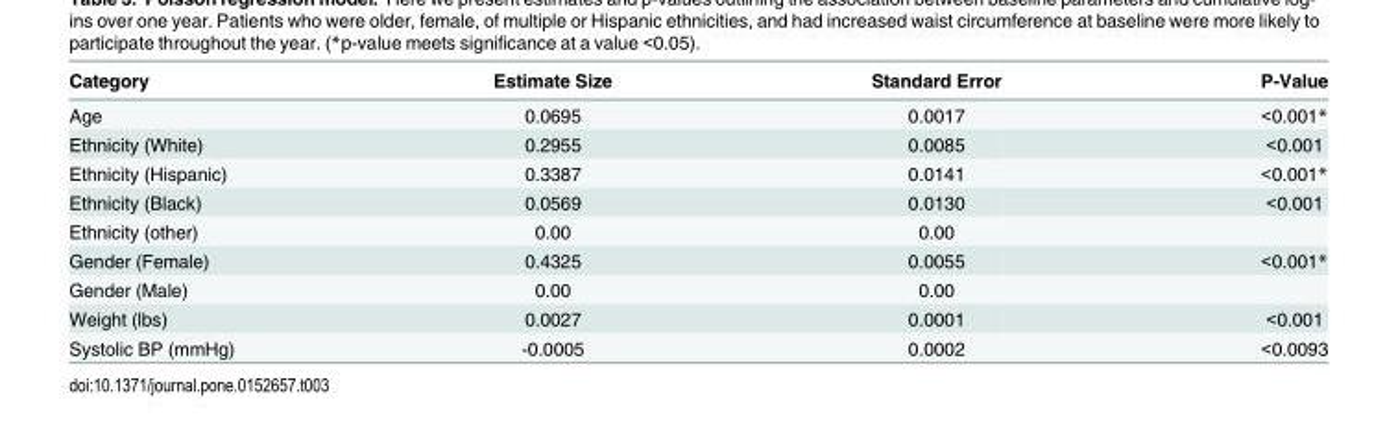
<table><thead><tr><td>Category</td><td>Estimate Size</td><td>Standard Error</td><td>P-Value</td></tr></thead><tbody><tr><td>Age</td><td>0.0695</td><td>0.0017</td><td>&lt;0.001*</td></tr><tr><td>Ethnicity (White)</td><td>0.2955</td><td>0.0085</td><td>&lt;0.001</td></tr><tr><td>Ethnicity (Hispanic)</td><td>0.3387</td><td>0.0141</td><td>&lt;0.001*</td></tr><tr><td>Ethnicity (Black)</td><td>0.0569</td><td>0.0130</td><td>&lt;0.001</td></tr><tr><td>Ethnicity (other)</td><td>0.00</td><td>0.00</td><td></td></tr><tr><td>Gender (Female)</td><td>0.4325</td><td>0.0055</td><td>&lt;0.001*</td></tr><tr><td>Gender (Male)</td><td>0.00</td><td>0.00</td><td></td></tr><tr><td>Weight (lbs)</td><td>0.0027</td><td>0.0001</td><td>&lt;0.001</td></tr><tr><td>Systolic BP (mmHg)</td><td>-0.0005</td><td>0.0002</td><td>&lt;0.0093</td></tr></tbody></table>